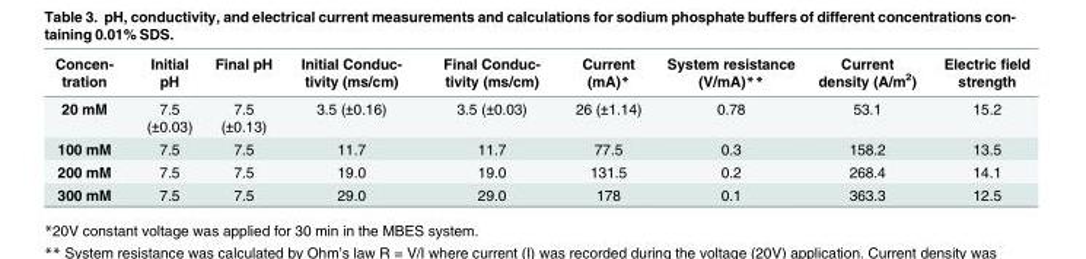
<table><thead><tr><td>Concen- tration</td><td>Initial pH</td><td>Final pH</td><td>Initial Conduc- tivity (ms/cm)</td><td>Final Conduc- tivity (ms/cm)</td><td>Current (mA)*</td><td>System resistance (V/mA)**</td><td>Current density (A/m<sup>2</sup>)</td><td>Electric field strength</td></tr></thead><tbody><tr><td>20 mM</td><td>7.5 (±0.03)</td><td>7.5 (±0.13)</td><td>3.5 (±0.16)</td><td>3.5 (±0.03)</td><td>26 (±1.14)</td><td>0.78</td><td>53.1</td><td>15.2</td></tr><tr><td>100 mM</td><td>7.5</td><td>7.5</td><td>11.7</td><td>11.7</td><td>77.5</td><td>0.3</td><td>158.2</td><td>13.5</td></tr><tr><td>200 mM</td><td>7.5</td><td>7.5</td><td>19.0</td><td>19.0</td><td>131.5</td><td>0.2</td><td>268.4</td><td>14.1</td></tr><tr><td>300 mM</td><td>7.5</td><td>7.5</td><td>29.0</td><td>29.0</td><td>178</td><td>0.1</td><td>363.3</td><td>12.5</td></tr></tbody></table>